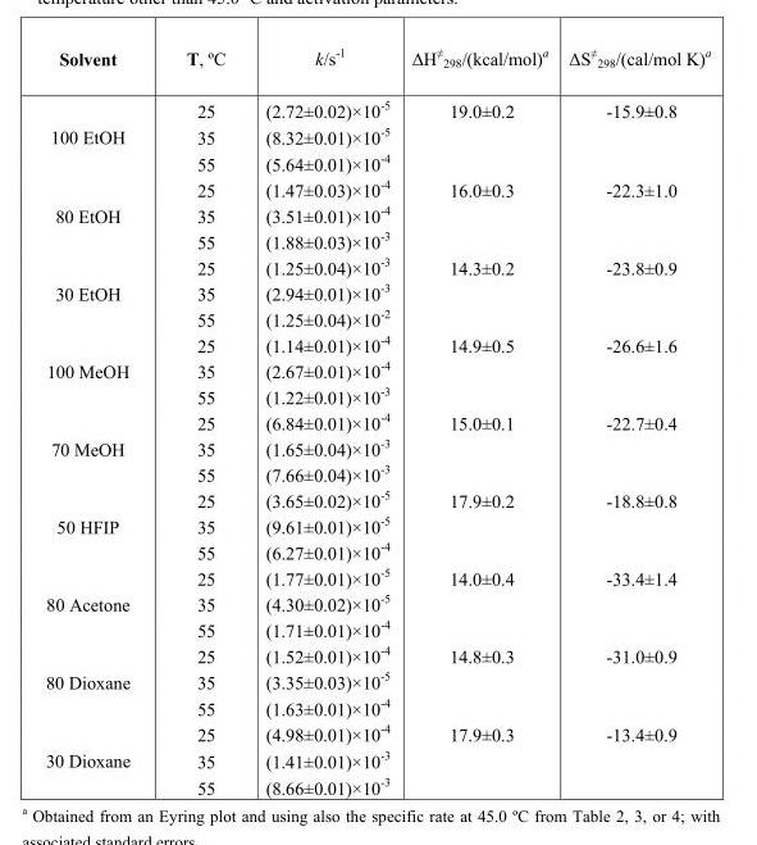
<table><thead><tr><td>Solvent</td><td>T, ºC</td><td>k/s<sup>-1</sup></td><td>ΔH<sup>≠</sup> <sub>298</sub>/(kcal/mol)a</td><td>ΔS<sup>≠</sup> <sub>298</sub>/(cal/mol K)a</td></tr></thead><tbody><tr><td rowspan="3">100 EtOH</td><td>25</td><td>(2.72±0.02)×10<sup>-5</sup></td><td rowspan="3">19.0±0.2</td><td rowspan="3">-15.9±0.8</td></tr><tr><td>35</td><td>(8.32±0.01)×10<sup>-5</sup></td></tr><tr><td>55</td><td>(5.64±0.01)×10<sup>-4</sup></td></tr><tr><td rowspan="3">80 EtOH</td><td>25</td><td>(1.47±0.03)×10<sup>-4</sup></td><td rowspan="3">16.0±0.3</td><td rowspan="3">-22.3±1.0</td></tr><tr><td>35</td><td>(3.51±0.01)×10<sup>-4</sup></td></tr><tr><td>55</td><td>(1.88±0.03)×10<sup>-3</sup></td></tr><tr><td rowspan="3">30 EtOH</td><td>25</td><td>(1.25±0.04)×10<sup>-3</sup></td><td rowspan="3">14.3±0.2</td><td rowspan="3">-23.8±0.9</td></tr><tr><td>35</td><td>(2.94±0.01)×10<sup>-3</sup></td></tr><tr><td>55</td><td>(1.25±0.04)×10<sup>-2</sup></td></tr><tr><td rowspan="3">100 MeOH</td><td>25</td><td>(1.14±0.01)×10<sup>-4</sup></td><td rowspan="3">14.9±0.5</td><td rowspan="3">-26.6±1.6</td></tr><tr><td>35</td><td>(2.67±0.01)×10<sup>-4</sup></td></tr><tr><td>55</td><td>(1.22±0.01)×10<sup>-3</sup></td></tr><tr><td rowspan="3">70 MeOH</td><td>25</td><td>(6.84±0.01)×10<sup>-4</sup></td><td rowspan="3">15.0±0.1</td><td rowspan="3">-22.7±0.4</td></tr><tr><td>35</td><td>(1.65±0.04)×10<sup>-3</sup></td></tr><tr><td>55</td><td>(7.66±0.04)×10<sup>-3</sup></td></tr><tr><td rowspan="3">50 HFIP</td><td>25</td><td>(3.65±0.02)×10<sup>-5</sup></td><td rowspan="3">17.9±0.2</td><td rowspan="3">-18.8±0.8</td></tr><tr><td>35</td><td>(9.61±0.01)×10<sup>-5</sup></td></tr><tr><td>55</td><td>(6.27±0.01)×10<sup>-4</sup></td></tr><tr><td rowspan="3">80 Acetone</td><td>25</td><td>(1.77±0.01)×10<sup>-5</sup></td><td rowspan="3">14.0±0.4</td><td rowspan="3">-33.4±1.4</td></tr><tr><td>35</td><td>(4.30±0.02)×10<sup>-5</sup></td></tr><tr><td>55</td><td>(1.71±0.01)×10<sup>-4</sup></td></tr><tr><td rowspan="3">80 Dioxane</td><td>25</td><td>(1.52±0.01)×10<sup>-4</sup></td><td rowspan="3">14.8±0.3</td><td rowspan="3">-31.0±0.9</td></tr><tr><td>35</td><td>(3.35±0.03)×10<sup>-5</sup></td></tr><tr><td>55</td><td>(1.63±0.01)×10<sup>-4</sup></td></tr><tr><td rowspan="3">30 Dioxane</td><td>25</td><td>(4.98±0.01)×10<sup>-4</sup></td><td rowspan="3">17.9±0.3</td><td rowspan="3">-13.4±0.9</td></tr><tr><td>35</td><td>(1.41±0.01)×10<sup>-3</sup></td></tr><tr><td>55</td><td>(8.66±0.01)×10<sup>-3</sup></td></tr></tbody></table>